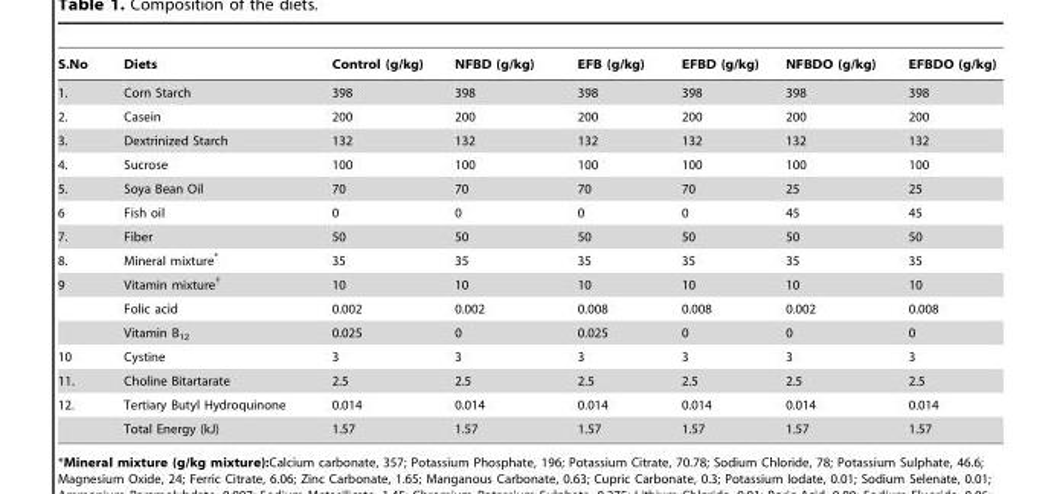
<table><thead><tr><td>S.No</td><td>Diets</td><td>Control (g/kg)</td><td>NFBD (g/kg)</td><td>EFB (g/kg)</td><td>EFBD (g/kg)</td><td>NFBDO (g/kg)</td><td>EFBDO (g/kg)</td></tr></thead><tbody><tr><td>1.</td><td>Corn Starch</td><td>398</td><td>398</td><td>398</td><td>398</td><td>398</td><td>398</td></tr><tr><td>2.</td><td>Casein</td><td>200</td><td>200</td><td>200</td><td>200</td><td>200</td><td>200</td></tr><tr><td>3.</td><td>Dextrinized Starch</td><td>132</td><td>132</td><td>132</td><td>132</td><td>132</td><td>132</td></tr><tr><td>4.</td><td>Sucrose</td><td>100</td><td>100</td><td>100</td><td>100</td><td>100</td><td>100</td></tr><tr><td>5.</td><td>Soya Bean Oil</td><td>70</td><td>70</td><td>70</td><td>70</td><td>25</td><td>25</td></tr><tr><td>6</td><td>Fish oil</td><td>0</td><td>0</td><td>0</td><td>0</td><td>45</td><td>45</td></tr><tr><td>7.</td><td>Fiber</td><td>50</td><td>50</td><td>50</td><td>50</td><td>50</td><td>50</td></tr><tr><td>8.</td><td>Mineral mixture*</td><td>35</td><td>35</td><td>35</td><td>35</td><td>35</td><td>35</td></tr><tr><td rowspan="3">9</td><td>Vitamin mixture†</td><td>10</td><td>10</td><td>10</td><td>10</td><td>10</td><td>10</td></tr><tr><td>Folic acid</td><td>0.002</td><td>0.002</td><td>0.008</td><td>0.008</td><td>0.002</td><td>0.008</td></tr><tr><td>Vitamin B<sub>12</sub></td><td>0.025</td><td>0</td><td>0.025</td><td>0</td><td>0</td><td>0</td></tr><tr><td>10</td><td>Cystine</td><td>3</td><td>3</td><td>3</td><td>3</td><td>3</td><td>3</td></tr><tr><td>11.</td><td>Choline Bitartarate</td><td>2.5</td><td>2.5</td><td>2.5</td><td>2.5</td><td>2.5</td><td>2.5</td></tr><tr><td rowspan="2">12.</td><td>Tertiary Butyl Hydroquinone</td><td>0.014</td><td>0.014</td><td>0.014</td><td>0.014</td><td>0.014</td><td>0.014</td></tr><tr><td>Total Energy (kJ)</td><td>1.57</td><td>1.57</td><td>1.57</td><td>1.57</td><td>1.57</td><td>1.57</td></tr></tbody></table>